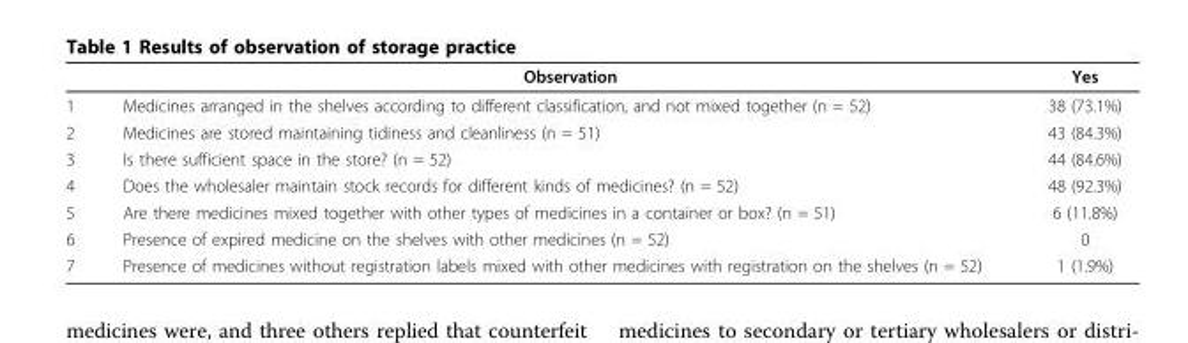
<table><thead><tr><td></td><td>Observation</td><td>Yes</td></tr></thead><tbody><tr><td>1</td><td>Medicines arranged in the shelves according to different classification, and not mixed together (n = 52)</td><td>38 (73.1%)</td></tr><tr><td>2</td><td>Medicines are stored maintaining tidiness and cleanliness (n = 51)</td><td>43 (84.3%)</td></tr><tr><td>3</td><td>Is there sufficient space in the store? (n = 52)</td><td>44 (84.6%)</td></tr><tr><td>4</td><td>Does the wholesaler maintain stock records for different kinds of medicines? (n = 52)</td><td>48 (92.3%)</td></tr><tr><td>5</td><td>Are there medicines mixed together with other types of medicines in a container or box? (n = 51)</td><td>6 (11.8%)</td></tr><tr><td>6</td><td>Presence of expired medicine on the shelves with other medicines (n = 52)</td><td>0</td></tr><tr><td>7</td><td>Presence of medicines without registration labels mixed with other medicines with registration on the shelves (n = 52)</td><td>1 (1.9%)</td></tr></tbody></table>